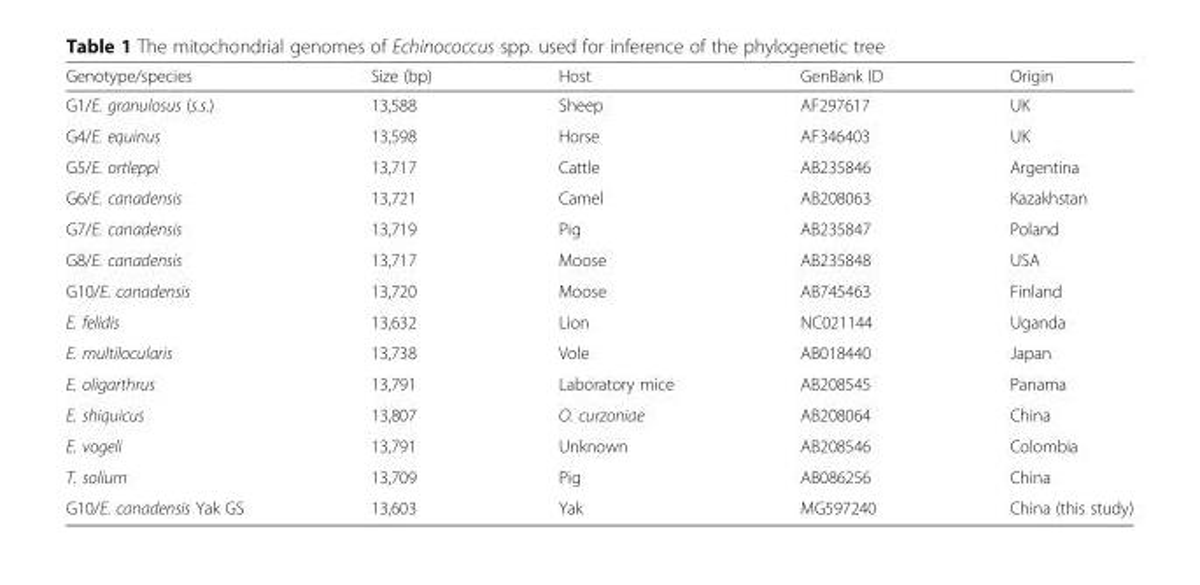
<table><thead><tr><td>Genotype/species</td><td>Size (bp)</td><td>Host</td><td>GenBank ID</td><td>Origin</td></tr></thead><tbody><tr><td>G1/E. granulosus (s.s.)</td><td>13,588</td><td>Sheep</td><td>AF297617</td><td>UK</td></tr><tr><td>G4/E. equinus</td><td>13,598</td><td>Horse</td><td>AF346403</td><td>UK</td></tr><tr><td>G5/E. ortleppi</td><td>13,717</td><td>Cattle</td><td>AB235846</td><td>Argentina</td></tr><tr><td>G6/E. canadensis</td><td>13,721</td><td>Camel</td><td>AB208063</td><td>Kazakhstan</td></tr><tr><td>G7/E. canadensis</td><td>13,719</td><td>Pig</td><td>AB235847</td><td>Poland</td></tr><tr><td>G8/E. canadensis</td><td>13,717</td><td>Moose</td><td>AB235848</td><td>USA</td></tr><tr><td>G10/E. canadensis</td><td>13,720</td><td>Moose</td><td>AB745463</td><td>Finland</td></tr><tr><td>E. felidis</td><td>13,632</td><td>Lion</td><td>NC021144</td><td>Uganda</td></tr><tr><td>E. multilocularis</td><td>13,738</td><td>Vole</td><td>AB018440</td><td>Japan</td></tr><tr><td>E. oligarthrus</td><td>13,791</td><td>Laboratory mice</td><td>AB208545</td><td>Panama</td></tr><tr><td>E. shiquicus</td><td>13,807</td><td>O. curzoniae</td><td>AB208064</td><td>China</td></tr><tr><td>E. vogeli</td><td>13,791</td><td>Unknown</td><td>AB208546</td><td>Colombia</td></tr><tr><td>T. solium</td><td>13,709</td><td>Pig</td><td>AB086256</td><td>China</td></tr><tr><td>G10/E. canadensis Yak GS</td><td>13,603</td><td>Yak</td><td>MG597240</td><td>China (this study)</td></tr></tbody></table>